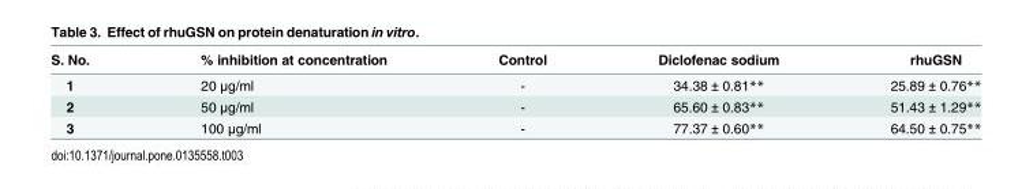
<table><thead><tr><td>S. No.</td><td>% inhibition at concentration</td><td>Control</td><td>Diclofenac sodium</td><td>rhuGSN</td></tr></thead><tbody><tr><td>1</td><td>20 μg/ml</td><td>-</td><td>34.38 ± 0.81**</td><td>25.89 ± 0.76**</td></tr><tr><td>2</td><td>50 μg/ml</td><td>-</td><td>65.60 ± 0.83**</td><td>51.43 ± 1.29**</td></tr><tr><td>3</td><td>100 μg/ml</td><td>-</td><td>77.37 ± 0.60**</td><td>64.50 ± 0.75**</td></tr></tbody></table>